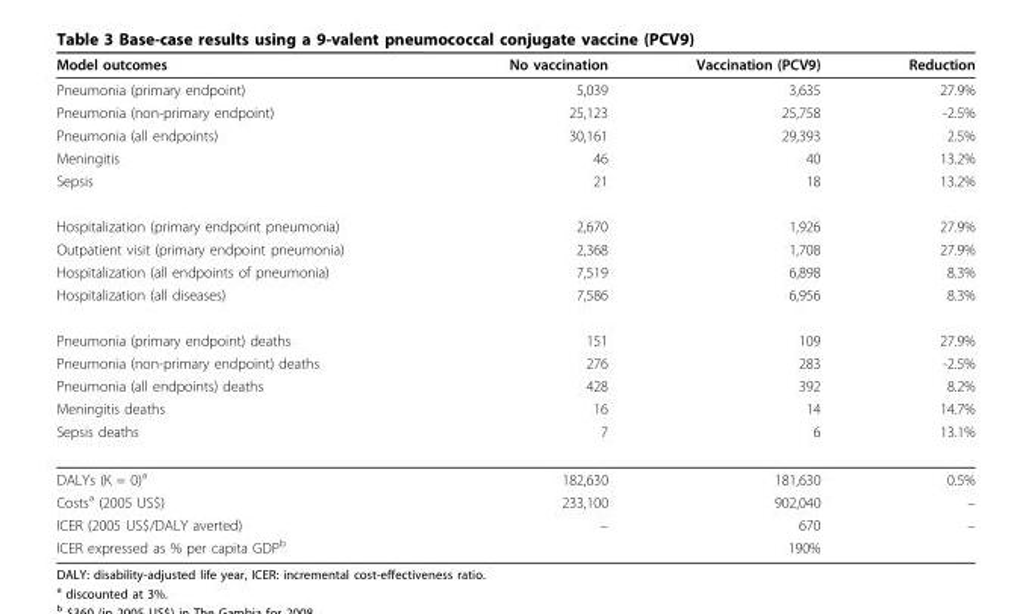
<table><thead><tr><td>Model outcomes</td><td>No vaccination</td><td>Vaccination (PCV9)</td><td>Reduction</td></tr></thead><tbody><tr><td>Pneumonia (primary endpoint)</td><td>5,039</td><td>3,635</td><td>27.9%</td></tr><tr><td>Pneumonia (non-primary endpoint)</td><td>25,123</td><td>25,758</td><td>-2.5%</td></tr><tr><td>Pneumonia (all endpoints)</td><td>30,161</td><td>29,393</td><td>2.5%</td></tr><tr><td>Meningitis</td><td>46</td><td>40</td><td>13.2%</td></tr><tr><td>Sepsis</td><td>21</td><td>18</td><td>13.2%</td></tr><tr><td>Hospitalization (primary endpoint pneumonia)</td><td>2,670</td><td>1,926</td><td>27.9%</td></tr><tr><td>Outpatient visit (primary endpoint pneumonia)</td><td>2,368</td><td>1,708</td><td>27.9%</td></tr><tr><td>Hospitalization (all endpoints of pneumonia)</td><td>7,519</td><td>6,898</td><td>8.3%</td></tr><tr><td>Hospitalization (all diseases)</td><td>7,586</td><td>6,956</td><td>8.3%</td></tr><tr><td>Pneumonia (primary endpoint) deaths</td><td>151</td><td>109</td><td>27.9%</td></tr><tr><td>Pneumonia (non-primary endpoint) deaths</td><td>276</td><td>283</td><td>-2.5%</td></tr><tr><td>Pneumonia (all endpoints) deaths</td><td>428</td><td>392</td><td>8.2%</td></tr><tr><td>Meningitis deaths</td><td>16</td><td>14</td><td>14.7%</td></tr><tr><td>Sepsis deaths</td><td>7</td><td>6</td><td>13.1%</td></tr><tr><td>DALYs (K = 0)a</td><td>182,630</td><td>181,630</td><td>0.5%</td></tr><tr><td>Costsa (2005 US$)</td><td>233,100</td><td>902,040</td><td>–</td></tr><tr><td>ICER (2005 US$/DALY averted)</td><td>–</td><td>670</td><td>–</td></tr><tr><td>ICER expressed as % per capita GDPb</td><td></td><td>190%</td><td></td></tr></tbody></table>